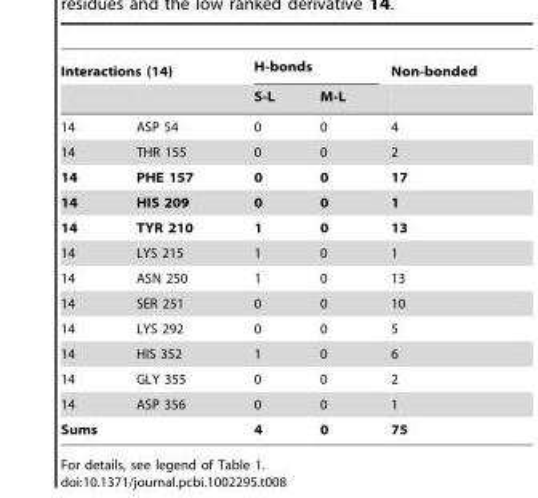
<table><thead><tr><td colspan="2">Interactions (14)</td><td colspan="2">H-bonds</td><td rowspan="2">Non-bonded</td></tr><tr><td></td><td></td><td>S-L</td><td>M-L</td></tr></thead><tbody><tr><td>14</td><td>ASP 54</td><td>0</td><td>0</td><td>4</td></tr><tr><td>14</td><td>THR 155</td><td>0</td><td>0</td><td>2</td></tr><tr><td>14</td><td>PHE 157</td><td>0</td><td>0</td><td>17</td></tr><tr><td>14</td><td>HIS 209</td><td>0</td><td>0</td><td>1</td></tr><tr><td>14</td><td>TYR 210</td><td>1</td><td>0</td><td>13</td></tr><tr><td>14</td><td>LYS 215</td><td>1</td><td>0</td><td>1</td></tr><tr><td>14</td><td>ASN 250</td><td>1</td><td>0</td><td>13</td></tr><tr><td>14</td><td>SER 251</td><td>0</td><td>0</td><td>10</td></tr><tr><td>14</td><td>LYS 292</td><td>0</td><td>0</td><td>5</td></tr><tr><td>14</td><td>HIS 352</td><td>1</td><td>0</td><td>6</td></tr><tr><td>14</td><td>GLY 355</td><td>0</td><td>0</td><td>2</td></tr><tr><td>14</td><td>ASP 356</td><td>0</td><td>0</td><td>1</td></tr><tr><td>Sums</td><td></td><td>4</td><td>0</td><td>75</td></tr></tbody></table>